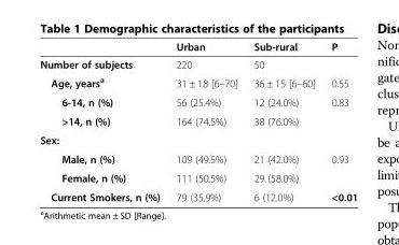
<table><thead><tr><td></td><td>Urban</td><td>Sub-rural</td><td>P</td></tr></thead><tbody><tr><td>Number of subjects</td><td>220</td><td>50</td><td></td></tr><tr><td>Age, years<sup>a</sup></td><td>31 ± 18 [6–70]</td><td>36 ± 15 [6–60]</td><td>0.55</td></tr><tr><td>6-14, n (%)</td><td>56 (25.4%)</td><td>12 (24.0%)</td><td>0.83</td></tr><tr><td>&gt;14, n (%)</td><td>164 (74.5%)</td><td>38 (76.0%)</td><td></td></tr><tr><td colspan="4">Sex:</td></tr><tr><td>Male, n (%)</td><td>109 (49.5%)</td><td>21 (42.0%)</td><td>0.93</td></tr><tr><td>Female, n (%)</td><td>111 (50.5%)</td><td>29 (58.0%)</td><td></td></tr><tr><td>Current Smokers, n (%)</td><td>79 (35.9%)</td><td>6 (12.0%)</td><td>&lt;0.01</td></tr></tbody></table>